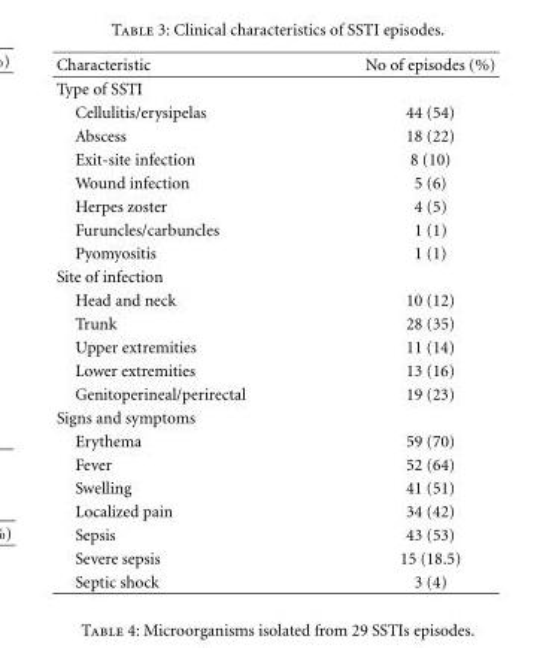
<table><thead><tr><td>Characteristic</td><td>No of episodes (%)</td></tr></thead><tbody><tr><td colspan="2">Type of SSTI</td></tr><tr><td>Cellulitis/erysipelas</td><td>44 (54)</td></tr><tr><td>Abscess</td><td>18 (22)</td></tr><tr><td>Exit-site infection</td><td>8 (10)</td></tr><tr><td>Wound infection</td><td>5 (6)</td></tr><tr><td>Herpes zoster</td><td>4 (5)</td></tr><tr><td>Furuncles/carbuncles</td><td>1 (1)</td></tr><tr><td>Pyomyositis</td><td>1 (1)</td></tr><tr><td colspan="2">Site of infection</td></tr><tr><td>Head and neck</td><td>10 (12)</td></tr><tr><td>Trunk</td><td>28 (35)</td></tr><tr><td>Upper extremities</td><td>11 (14)</td></tr><tr><td>Lower extremities</td><td>13 (16)</td></tr><tr><td>Genitoperineal/perirectal</td><td>19 (23)</td></tr><tr><td colspan="2">Signs and symptoms</td></tr><tr><td>Erythema</td><td>59 (70)</td></tr><tr><td>Fever</td><td>52 (64)</td></tr><tr><td>Swelling</td><td>41 (51)</td></tr><tr><td>Localized pain</td><td>34 (42)</td></tr><tr><td>Sepsis</td><td>43 (53)</td></tr><tr><td>Severe sepsis</td><td>15 (18.5)</td></tr><tr><td>Septic shock</td><td>3 (4)</td></tr></tbody></table>